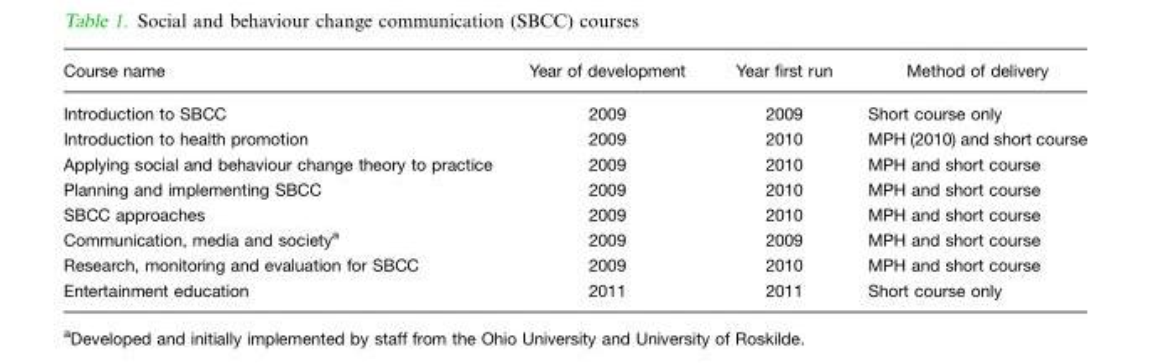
<table><thead><tr><td>Course name</td><td>Year of development</td><td>Year first run</td><td>Method of delivery</td></tr></thead><tbody><tr><td>Introduction to SBCC</td><td>2009</td><td>2009</td><td>Short course only</td></tr><tr><td>Introduction to health promotion</td><td>2009</td><td>2010</td><td>MPH (2010) and short course</td></tr><tr><td>Applying social and behaviour change theory to practice</td><td>2009</td><td>2010</td><td>MPH and short course</td></tr><tr><td>Planning and implementing SBCC</td><td>2009</td><td>2010</td><td>MPH and short course</td></tr><tr><td>SBCC approaches</td><td>2009</td><td>2010</td><td>MPH and short course</td></tr><tr><td>Communication, media and society<sup>a</sup></td><td>2009</td><td>2009</td><td>MPH and short course</td></tr><tr><td>Research, monitoring and evaluation for SBCC</td><td>2009</td><td>2010</td><td>MPH and short course</td></tr><tr><td>Entertainment education</td><td>2011</td><td>2011</td><td>Short course only</td></tr></tbody></table>